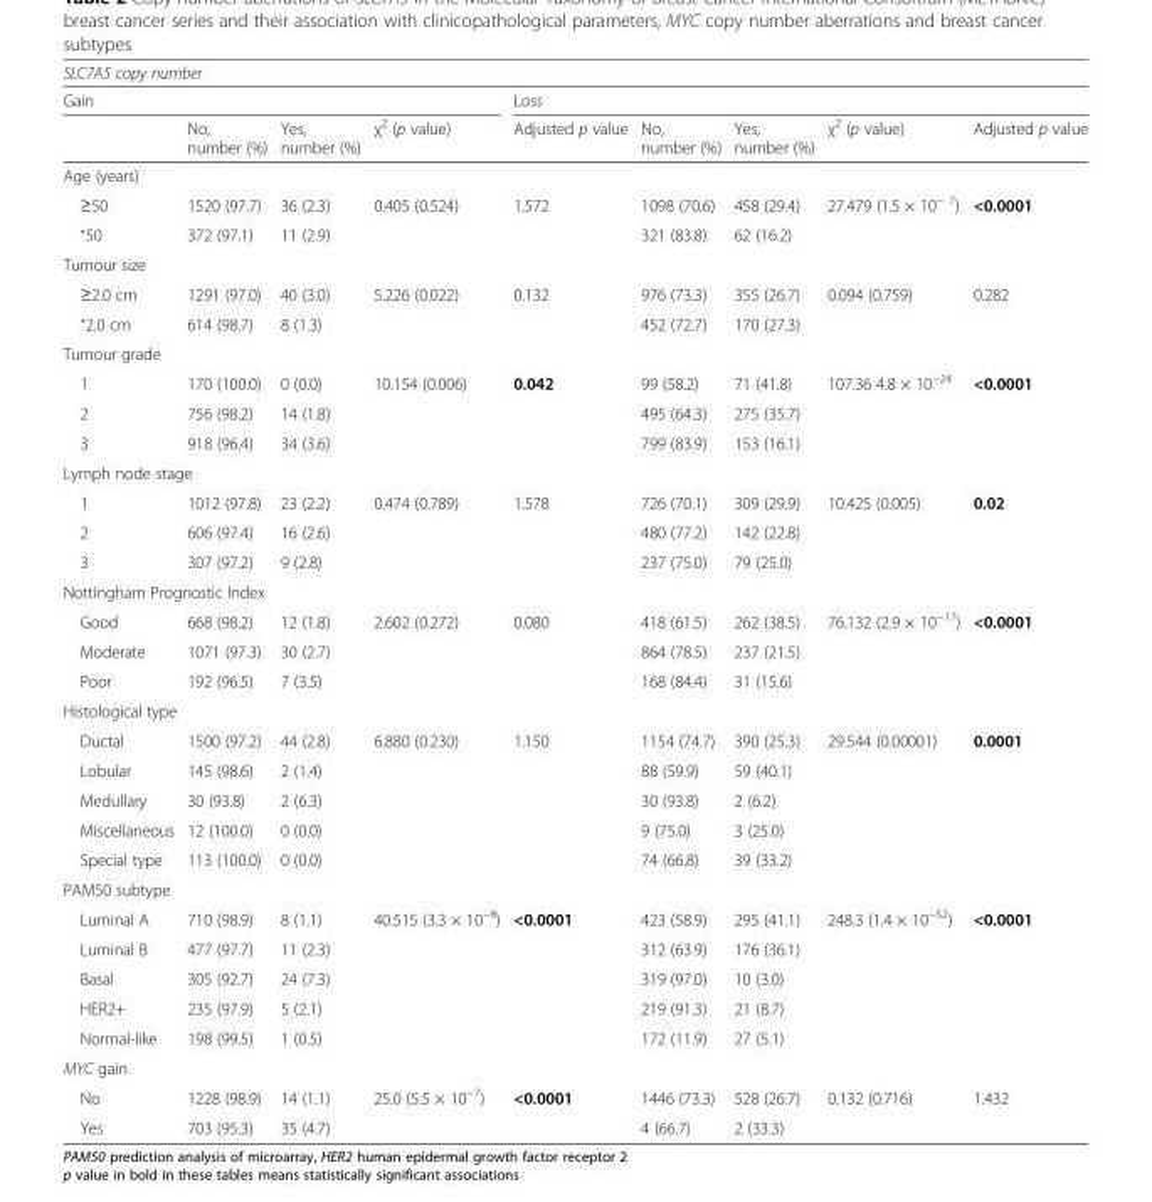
<table><thead><tr><td colspan="9">SLC7A5 copy number</td></tr><tr><td colspan="4">Gain</td><td colspan="5">Loss</td></tr><tr><td></td><td>No, number (%)</td><td>Yes, number (%)</td><td>χ<sup>2</sup> (p value)</td><td>Adjusted p value</td><td>No, number (%)</td><td>Yes, number (%)</td><td>χ<sup>2</sup> (p value)</td><td>Adjusted p value</td></tr></thead><tbody><tr><td colspan="9">Age (years)</td></tr><tr><td>≥50</td><td>1520 (97.7)</td><td>36 (2.3)</td><td rowspan="2">0.405 (0.524)</td><td rowspan="2">1.572</td><td>1098 (70.6)</td><td>458 (29.4)</td><td rowspan="2">27.479 (1.5 × 10<sup>− 7</sup>)</td><td rowspan="2">&lt;0.0001</td></tr><tr><td>˂50</td><td>372 (97.1)</td><td>11 (2.9)</td><td>321 (83.8)</td><td>62 (16.2)</td></tr><tr><td colspan="9">Tumour size</td></tr><tr><td>≥2.0 cm</td><td>1291 (97.0)</td><td>40 (3.0)</td><td rowspan="2">5.226 (0.022)</td><td rowspan="2">0.132</td><td>976 (73.3)</td><td>355 (26.7)</td><td rowspan="2">0.094 (0.759)</td><td rowspan="2">0.282</td></tr><tr><td>˂2.0 cm</td><td>614 (98.7)</td><td>8 (1.3)</td><td>452 (72.7)</td><td>170 (27.3)</td></tr><tr><td colspan="9">Tumour grade</td></tr><tr><td>1</td><td>170 (100.0)</td><td>0 (0.0)</td><td rowspan="3">10.154 (0.006)</td><td rowspan="3">0.042</td><td>99 (58.2)</td><td>71 (41.8)</td><td rowspan="3">107.36 4.8 × 10<sup>−24</sup></td><td rowspan="3">&lt;0.0001</td></tr><tr><td>2</td><td>756 (98.2)</td><td>14 (1.8)</td><td>495 (64.3)</td><td>275 (35.7)</td></tr><tr><td>3</td><td>918 (96.4)</td><td>34 (3.6)</td><td>799 (83.9)</td><td>153 (16.1)</td></tr><tr><td colspan="9">Lymph node stage</td></tr><tr><td>1</td><td>1012 (97.8)</td><td>23 (2.2)</td><td rowspan="3">0.474 (0.789)</td><td rowspan="3">1.578</td><td>726 (70.1)</td><td>309 (29.9)</td><td rowspan="3">10.425 (0.005)</td><td rowspan="3">0.02</td></tr><tr><td>2</td><td>606 (97.4)</td><td>16 (2.6)</td><td>480 (77.2)</td><td>142 (22.8)</td></tr><tr><td>3</td><td>307 (97.2)</td><td>9 (2.8)</td><td>237 (75.0)</td><td>79 (25.0)</td></tr><tr><td colspan="9">Nottingham Prognostic Index</td></tr><tr><td>Good</td><td>668 (98.2)</td><td>12 (1.8)</td><td rowspan="3">2.602 (0.272)</td><td rowspan="3">0.080</td><td>418 (61.5)</td><td>262 (38.5)</td><td rowspan="3">76.132 (2.9 × 10<sup>−17</sup>)</td><td rowspan="3">&lt;0.0001</td></tr><tr><td>Moderate</td><td>1071 (97.3)</td><td>30 (2.7)</td><td>864 (78.5)</td><td>237 (21.5)</td></tr><tr><td>Poor</td><td>192 (96.5)</td><td>7 (3.5)</td><td>168 (84.4)</td><td>31 (15.6)</td></tr><tr><td colspan="9">Histological type</td></tr><tr><td>Ductal</td><td>1500 (97.2)</td><td>44 (2.8)</td><td rowspan="5">6.880 (0.230)</td><td rowspan="5">1.150</td><td>1154 (74.7)</td><td>390 (25.3)</td><td rowspan="5">29.544 (0.00001)</td><td rowspan="5">0.0001</td></tr><tr><td>Lobular</td><td>145 (98.6)</td><td>2 (1.4)</td><td>88 (59.9)</td><td>59 (40.1)</td></tr><tr><td>Medullary</td><td>30 (93.8)</td><td>2 (6.3)</td><td>30 (93.8)</td><td>2 (6.2)</td></tr><tr><td>Miscellaneous</td><td>12 (100.0)</td><td>0 (0.0)</td><td>9 (75.0)</td><td>3 (25.0)</td></tr><tr><td>Special type</td><td>113 (100.0)</td><td>0 (0.0)</td><td>74 (66.8)</td><td>39 (33.2)</td></tr><tr><td colspan="9">PAM50 subtype</td></tr><tr><td>Luminal A</td><td>710 (98.9)</td><td>8 (1.1)</td><td rowspan="5">40.515 (3.3 × 10<sup>−8</sup>)</td><td rowspan="5">&lt;0.0001</td><td>423 (58.9)</td><td>295 (41.1)</td><td rowspan="5">248.3 (1.4 × 10<sup>−52</sup>)</td><td rowspan="5">&lt;0.0001</td></tr><tr><td>Luminal B</td><td>477 (97.7)</td><td>11 (2.3)</td><td>312 (63.9)</td><td>176 (36.1)</td></tr><tr><td>Basal</td><td>305 (92.7)</td><td>24 (7.3)</td><td>319 (97.0)</td><td>10 (3.0)</td></tr><tr><td>HER2+</td><td>235 (97.9)</td><td>5 (2.1)</td><td>219 (91.3)</td><td>21 (8.7)</td></tr><tr><td>Normal-like</td><td>198 (99.5)</td><td>1 (0.5)</td><td>172 (11.9)</td><td>27 (5.1)</td></tr><tr><td colspan="9">MYC gain</td></tr><tr><td>No</td><td>1228 (98.9)</td><td>14 (1.1)</td><td rowspan="2">25.0 (5.5 × 10<sup>−7</sup>)</td><td rowspan="2">&lt;0.0001</td><td>1446 (73.3)</td><td>528 (26.7)</td><td rowspan="2">0.132 (0.716)</td><td rowspan="2">1.432</td></tr><tr><td>Yes</td><td>703 (95.3)</td><td>35 (4.7)</td><td>4 (66.7)</td><td>2 (33.3)</td></tr></tbody></table>